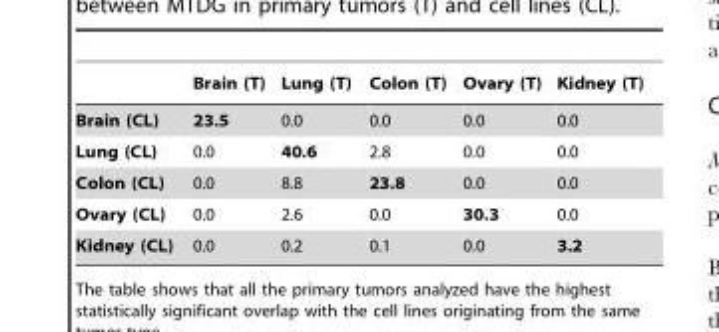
<table><thead><tr><td></td><td>Brain (T)</td><td>Lung (T)</td><td>Colon (T)</td><td>Ovary (T)</td><td>Kidney (T)</td></tr></thead><tbody><tr><td>Brain (CL)</td><td>23.5</td><td>0.0</td><td>0.0</td><td>0.0</td><td>0.0</td></tr><tr><td>Lung (CL)</td><td>0.0</td><td>40.6</td><td>2.8</td><td>0.0</td><td>0.0</td></tr><tr><td>Colon (CL)</td><td>0.0</td><td>8.8</td><td>23.8</td><td>0.0</td><td>0.0</td></tr><tr><td>Ovary (CL)</td><td>0.0</td><td>2.6</td><td>0.0</td><td>30.3</td><td>0.0</td></tr><tr><td>Kidney (CL)</td><td>0.0</td><td>0.2</td><td>0.1</td><td>0.0</td><td>3.2</td></tr></tbody></table>